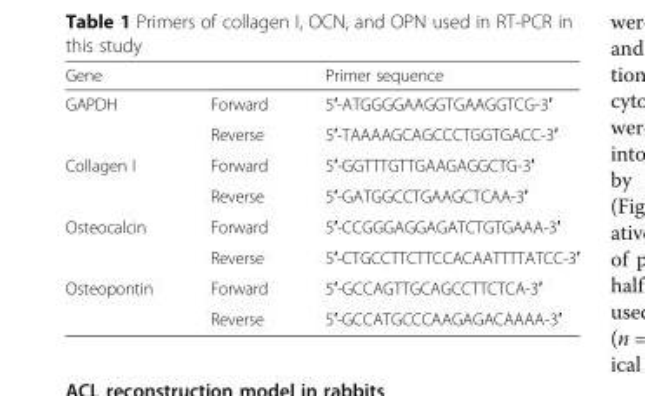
<table><thead><tr><td>Gene</td><td></td><td>Primer sequence</td></tr></thead><tbody><tr><td rowspan="2">GAPDH</td><td>Forward</td><td>5′-ATGGGGAAGGTGAAGGTCG-3′</td></tr><tr><td>Reverse</td><td>5′-TAAAAGCAGCCCTGGTGACC-3′</td></tr><tr><td rowspan="2">Collagen I</td><td>Forward</td><td>5′-GGTTTGTTGAAGAGGCTG-3′</td></tr><tr><td>Reverse</td><td>5′-GATGGCCTGAAGCTCAA-3′</td></tr><tr><td rowspan="2">Osteocalcin</td><td>Forward</td><td>5′-CCGGGAGGAGATCTGTGAAA-3′</td></tr><tr><td>Reverse</td><td>5′-CTGCCTTCTTCCACAATTTTATCC-3′</td></tr><tr><td rowspan="2">Osteopontin</td><td>Forward</td><td>5′-GCCAGTTGCAGCCTTCTCA-3′</td></tr><tr><td>Reverse</td><td>5′-GCCATGCCCAAGAGACAAAA-3′</td></tr></tbody></table>